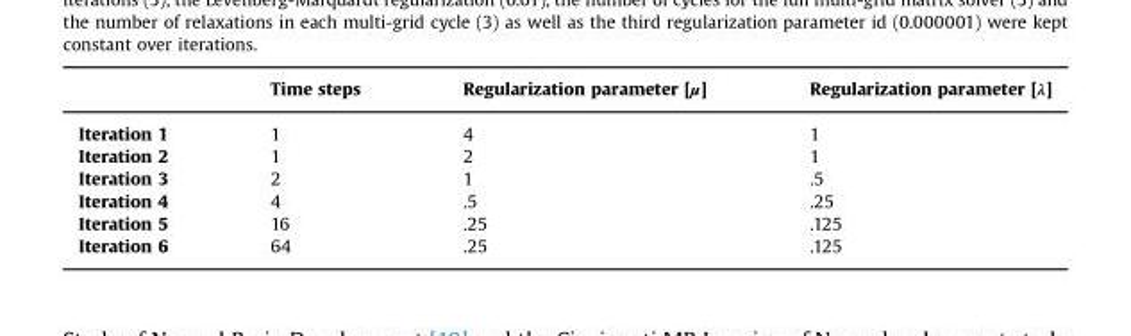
<table><thead><tr><td></td><td>Time steps</td><td>Regularization parameter [µ]</td><td>Regularization parameter [λ]</td></tr></thead><tbody><tr><td>Iteration 1</td><td>1</td><td>4</td><td>1</td></tr><tr><td>Iteration 2</td><td>1</td><td>2</td><td>1</td></tr><tr><td>Iteration 3</td><td>2</td><td>1</td><td>.5</td></tr><tr><td>Iteration 4</td><td>4</td><td>.5</td><td>.25</td></tr><tr><td>Iteration 5</td><td>16</td><td>.25</td><td>.125</td></tr><tr><td>Iteration 6</td><td>64</td><td>.25</td><td>.125</td></tr></tbody></table>